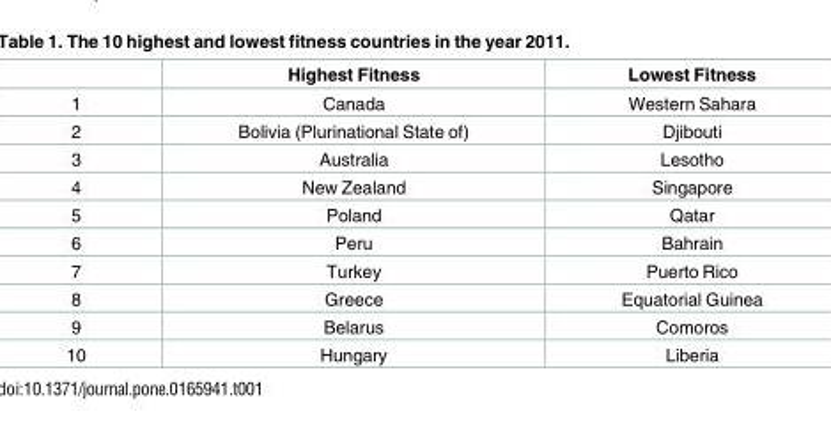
<table><thead><tr><td></td><td>Highest Fitness</td><td>Lowest Fitness</td></tr></thead><tbody><tr><td>1</td><td>Canada</td><td>Western Sahara</td></tr><tr><td>2</td><td>Bolivia (Plurinational State of)</td><td>Djibouti</td></tr><tr><td>3</td><td>Australia</td><td>Lesotho</td></tr><tr><td>4</td><td>New Zealand</td><td>Singapore</td></tr><tr><td>5</td><td>Poland</td><td>Qatar</td></tr><tr><td>6</td><td>Peru</td><td>Bahrain</td></tr><tr><td>7</td><td>Turkey</td><td>Puerto Rico</td></tr><tr><td>8</td><td>Greece</td><td>Equatorial Guinea</td></tr><tr><td>9</td><td>Belarus</td><td>Comoros</td></tr><tr><td>10</td><td>Hungary</td><td>Liberia</td></tr></tbody></table>